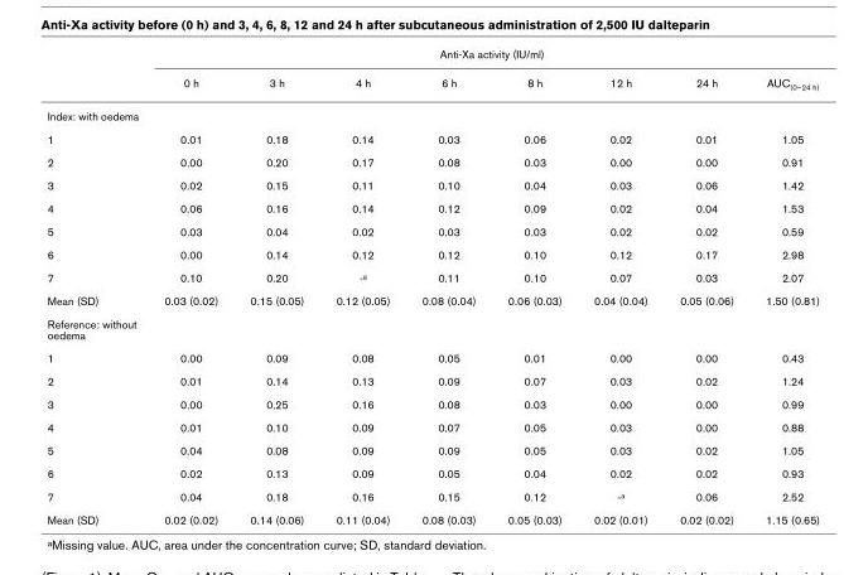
<table><thead><tr><td rowspan="2"></td><td colspan="8">Anti-Xa activity (IU/ml)</td></tr><tr><td>0 h</td><td>3 h</td><td>4 h</td><td>6 h</td><td>8 h</td><td>12 h</td><td>24 h</td><td>AUC(0–24 h)</td></tr></thead><tbody><tr><td colspan="9">Index: with oedema</td></tr><tr><td>1</td><td>0.01</td><td>0.18</td><td>0.14</td><td>0.03</td><td>0.06</td><td>0.02</td><td>0.01</td><td>1.05</td></tr><tr><td>2</td><td>0.00</td><td>0.20</td><td>0.17</td><td>0.08</td><td>0.03</td><td>0.00</td><td>0.00</td><td>0.91</td></tr><tr><td>3</td><td>0.02</td><td>0.15</td><td>0.11</td><td>0.10</td><td>0.04</td><td>0.03</td><td>0.06</td><td>1.42</td></tr><tr><td>4</td><td>0.06</td><td>0.16</td><td>0.14</td><td>0.12</td><td>0.09</td><td>0.02</td><td>0.04</td><td>1.53</td></tr><tr><td>5</td><td>0.03</td><td>0.04</td><td>0.02</td><td>0.03</td><td>0.03</td><td>0.02</td><td>0.02</td><td>0.59</td></tr><tr><td>6</td><td>0.00</td><td>0.14</td><td>0.12</td><td>0.12</td><td>0.10</td><td>0.12</td><td>0.17</td><td>2.98</td></tr><tr><td>7</td><td>0.10</td><td>0.20</td><td>-a</td><td>0.11</td><td>0.10</td><td>0.07</td><td>0.03</td><td>2.07</td></tr><tr><td>Mean (SD)</td><td>0.03 (0.02)</td><td>0.15 (0.05)</td><td>0.12 (0.05)</td><td>0.08 (0.04)</td><td>0.06 (0.03)</td><td>0.04 (0.04)</td><td>0.05 (0.06)</td><td>1.50 (0.81)</td></tr><tr><td colspan="9">Reference: without oedema</td></tr><tr><td>1</td><td>0.00</td><td>0.09</td><td>0.08</td><td>0.05</td><td>0.01</td><td>0.00</td><td>0.00</td><td>0.43</td></tr><tr><td>2</td><td>0.01</td><td>0.14</td><td>0.13</td><td>0.09</td><td>0.07</td><td>0.03</td><td>0.02</td><td>1.24</td></tr><tr><td>3</td><td>0.00</td><td>0.25</td><td>0.16</td><td>0.08</td><td>0.03</td><td>0.00</td><td>0.00</td><td>0.99</td></tr><tr><td>4</td><td>0.01</td><td>0.10</td><td>0.09</td><td>0.07</td><td>0.05</td><td>0.03</td><td>0.00</td><td>0.88</td></tr><tr><td>5</td><td>0.04</td><td>0.08</td><td>0.09</td><td>0.09</td><td>0.05</td><td>0.03</td><td>0.02</td><td>1.05</td></tr><tr><td>6</td><td>0.02</td><td>0.13</td><td>0.09</td><td>0.05</td><td>0.04</td><td>0.02</td><td>0.02</td><td>0.93</td></tr><tr><td>7</td><td>0.04</td><td>0.18</td><td>0.16</td><td>0.15</td><td>0.12</td><td>-a</td><td>0.06</td><td>2.52</td></tr><tr><td>Mean (SD)</td><td>0.02 (0.02)</td><td>0.14 (0.06)</td><td>0.11 (0.04)</td><td>0.08 (0.03)</td><td>0.05 (0.03)</td><td>0.02 (0.01)</td><td>0.02 (0.02)</td><td>1.15 (0.65)</td></tr></tbody></table>